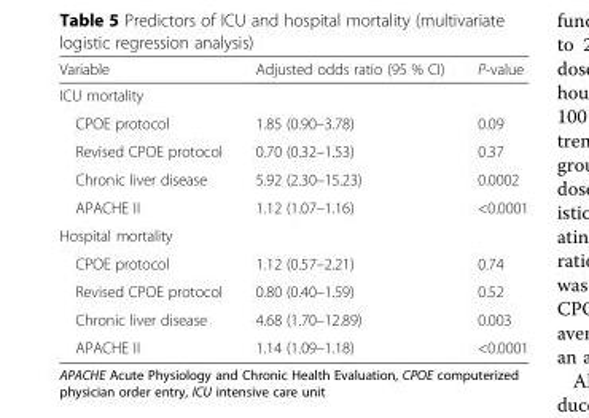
<table><thead><tr><td>Variable</td><td>Adjusted odds ratio (95 % CI)</td><td>P-value</td></tr></thead><tbody><tr><td colspan="3">ICU mortality</td></tr><tr><td>CPOE protocol</td><td>1.85 (0.90–3.78)</td><td>0.09</td></tr><tr><td>Revised CPOE protocol</td><td>0.70 (0.32–1.53)</td><td>0.37</td></tr><tr><td>Chronic liver disease</td><td>5.92 (2.30–15.23)</td><td>0.0002</td></tr><tr><td>APACHE II</td><td>1.12 (1.07–1.16)</td><td>&lt;0.0001</td></tr><tr><td colspan="3">Hospital mortality</td></tr><tr><td>CPOE protocol</td><td>1.12 (0.57–2.21)</td><td>0.74</td></tr><tr><td>Revised CPOE protocol</td><td>0.80 (0.40–1.59)</td><td>0.52</td></tr><tr><td>Chronic liver disease</td><td>4.68 (1.70–12.89)</td><td>0.003</td></tr><tr><td>APACHE II</td><td>1.14 (1.09–1.18)</td><td>&lt;0.0001</td></tr></tbody></table>